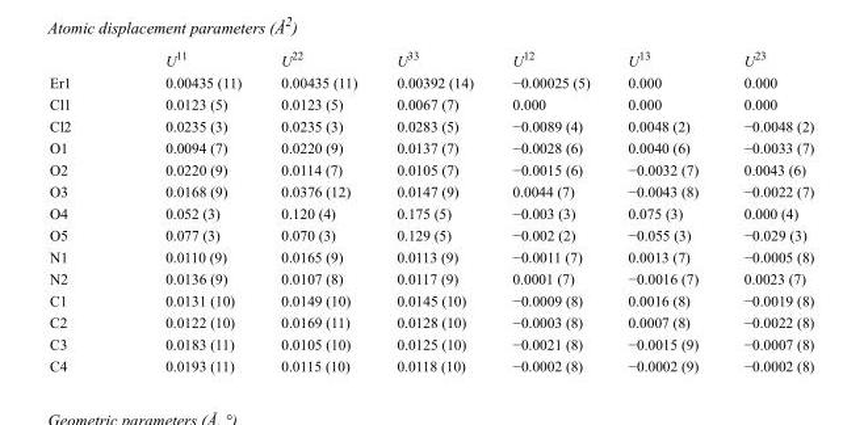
<table><thead><tr><td></td><td>U<sup>11</sup></td><td>U<sup>22</sup></td><td>U<sup>33</sup></td><td>U<sup>12</sup></td><td>U<sup>13</sup></td><td>U<sup>23</sup></td></tr></thead><tbody><tr><td>Er1</td><td>0.00435 (11)</td><td>0.00435 (11)</td><td>0.00392 (14)</td><td>−0.00025 (5)</td><td>0.000</td><td>0.000</td></tr><tr><td>Cl1</td><td>0.0123 (5)</td><td>0.0123 (5)</td><td>0.0067 (7)</td><td>0.000</td><td>0.000</td><td>0.000</td></tr><tr><td>Cl2</td><td>0.0235 (3)</td><td>0.0235 (3)</td><td>0.0283 (5)</td><td>−0.0089 (4)</td><td>0.0048 (2)</td><td>−0.0048 (2)</td></tr><tr><td>O1</td><td>0.0094 (7)</td><td>0.0220 (9)</td><td>0.0137 (7)</td><td>−0.0028 (6)</td><td>0.0040 (6)</td><td>−0.0033 (7)</td></tr><tr><td>O2</td><td>0.0220 (9)</td><td>0.0114 (7)</td><td>0.0105 (7)</td><td>−0.0015 (6)</td><td>−0.0032 (7)</td><td>0.0043 (6)</td></tr><tr><td>O3</td><td>0.0168 (9)</td><td>0.0376 (12)</td><td>0.0147 (9)</td><td>0.0044 (7)</td><td>−0.0043 (8)</td><td>−0.0022 (7)</td></tr><tr><td>O4</td><td>0.052 (3)</td><td>0.120 (4)</td><td>0.175 (5)</td><td>−0.003 (3)</td><td>0.075 (3)</td><td>0.000 (4)</td></tr><tr><td>O5</td><td>0.077 (3)</td><td>0.070 (3)</td><td>0.129 (5)</td><td>−0.002 (2)</td><td>−0.055 (3)</td><td>−0.029 (3)</td></tr><tr><td>N1</td><td>0.0110 (9)</td><td>0.0165 (9)</td><td>0.0113 (9)</td><td>−0.0011 (7)</td><td>0.0013 (7)</td><td>−0.0005 (8)</td></tr><tr><td>N2</td><td>0.0136 (9)</td><td>0.0107 (8)</td><td>0.0117 (9)</td><td>0.0001 (7)</td><td>−0.0016 (7)</td><td>0.0023 (7)</td></tr><tr><td>C1</td><td>0.0131 (10)</td><td>0.0149 (10)</td><td>0.0145 (10)</td><td>−0.0009 (8)</td><td>0.0016 (8)</td><td>−0.0019 (8)</td></tr><tr><td>C2</td><td>0.0122 (10)</td><td>0.0169 (11)</td><td>0.0128 (10)</td><td>−0.0003 (8)</td><td>0.0007 (8)</td><td>−0.0022 (8)</td></tr><tr><td>C3</td><td>0.0183 (11)</td><td>0.0105 (10)</td><td>0.0125 (10)</td><td>−0.0021 (8)</td><td>−0.0015 (9)</td><td>−0.0007 (8)</td></tr><tr><td>C4</td><td>0.0193 (11)</td><td>0.0115 (10)</td><td>0.0118 (10)</td><td>−0.0002 (8)</td><td>−0.0002 (9)</td><td>−0.0002 (8)</td></tr></tbody></table>